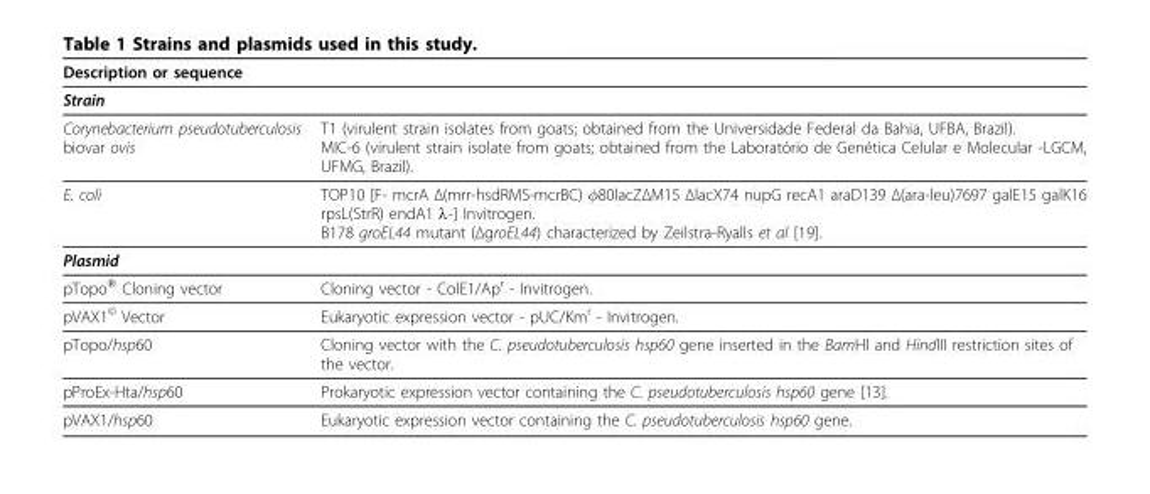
<table><thead><tr><td>Description or sequence</td><td></td></tr></thead><tbody><tr><td colspan="2">Strain</td></tr><tr><td>Corynebacterium pseudotuberculosis biovar ovis</td><td>T1 (virulent strain isolates from goats; obtained from the Universidade Federal da Bahia, UFBA, Brazil). MIC-6 (virulent strain isolate from goats; obtained from the Laboratório de Genética Celular e Molecular -LGCM, UFMG, Brazil).</td></tr><tr><td>E. coli</td><td>TOP10 [F- mcrA Δ(mrr-hsdRMS-mcrBC) φ80lacZΔM15 ΔlacX74 nupG recA1 araD139 Δ(ara-leu)7697 galE15 galK16 rpsL(StrR) endA1 λ-] Invitrogen. B178 groEL44 mutant (ΔgroEL44) characterized by Zeilstra-Ryalls et al [19].</td></tr><tr><td colspan="2">Plasmid</td></tr><tr><td>pTopo<sup>®</sup> Cloning vector</td><td>Cloning vector - ColE1/Ap<sup>r</sup> - Invitrogen.</td></tr><tr><td>pVAX1<sup>©</sup> Vector</td><td>Eukaryotic expression vector - pUC/Km<sup>r</sup> - Invitrogen.</td></tr><tr><td>pTopo/hsp60</td><td>Cloning vector with the C. pseudotuberculosis hsp60 gene inserted in the BamHI and HindIII restriction sites of the vector.</td></tr><tr><td>pProEx-Hta/hsp60</td><td>Prokaryotic expression vector containing the C. pseudotuberculosis hsp60 gene [13].</td></tr><tr><td>pVAX1/hsp60</td><td>Eukaryotic expression vector containing the C. pseudotuberculosis hsp60 gene.</td></tr></tbody></table>